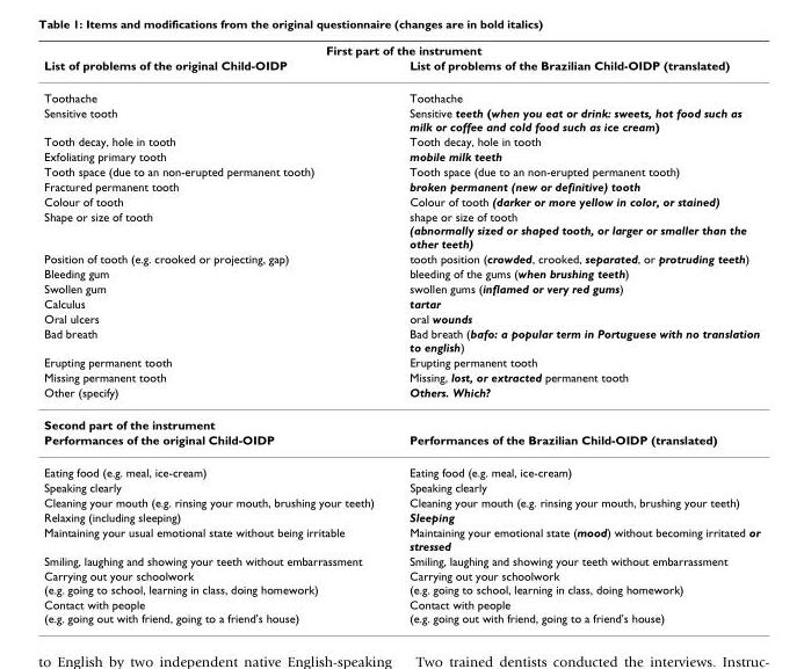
<table><thead><tr><td colspan="2">First part of the instrument</td></tr><tr><td>List of problems of the original Child-OIDP</td><td>List of problems of the Brazilian Child-OIDP (translated)</td></tr></thead><tbody><tr><td>Toothache</td><td>Toothache</td></tr><tr><td>Sensitive tooth</td><td>Sensitive teeth (when you eat or drink: sweets, hot food such as milk or coffee and cold food such as ice cream)</td></tr><tr><td>Tooth decay, hole in tooth</td><td>Tooth decay, hole in tooth</td></tr><tr><td>Exfoliating primary tooth</td><td>mobile milk teeth</td></tr><tr><td>Tooth space (due to an non-erupted permanent tooth)</td><td>Tooth space (due to an non-erupted permanent tooth)</td></tr><tr><td>Fractured permanent tooth</td><td>broken permanent (new or definitive) tooth</td></tr><tr><td>Colour of tooth</td><td>Colour of tooth (darker or more yellow in color, or stained)</td></tr><tr><td>Shape or size of tooth</td><td>shape or size of tooth (abnormally sized or shaped tooth, or larger or smaller than the other teeth)</td></tr><tr><td>Position of tooth (e.g. crooked or projecting, gap)</td><td>tooth position (crowded, crooked, separated, or protruding teeth)</td></tr><tr><td>Bleeding gum</td><td>bleeding of the gums (when brushing teeth)</td></tr><tr><td>Swollen gum</td><td>swollen gums (inflamed or very red gums)</td></tr><tr><td>Calculus</td><td>tartar</td></tr><tr><td>Oral ulcers</td><td>oral wounds</td></tr><tr><td>Bad breath</td><td>Bad breath (bafo: a popular term in Portuguese with no translation to english)</td></tr><tr><td>Erupting permanent tooth</td><td>Erupting permanent tooth</td></tr><tr><td>Missing permanent tooth</td><td>Missing, lost, or extracted permanent tooth</td></tr><tr><td>Other (specify)</td><td>Others. Which?</td></tr><tr><td colspan="2">Second part of the instrument</td></tr><tr><td>Performances of the original Child-OIDP</td><td>Performances of the Brazilian Child-OIDP (translated)</td></tr><tr><td>Eating food (e.g. meal, ice-cream)</td><td>Eating food (e.g. meal, ice-cream)</td></tr><tr><td>Speaking clearly</td><td>Speaking clearly</td></tr><tr><td>Cleaning your mouth (e.g. rinsing your mouth, brushing your teeth)</td><td>Cleaning your mouth (e.g. rinsing your mouth, brushing your teeth)</td></tr><tr><td>Relaxing (including sleeping)</td><td>Sleeping</td></tr><tr><td>Maintaining your usual emotional state without being irritable</td><td>Maintaining your emotional state (mood) without becoming irritated or stressed</td></tr><tr><td>Smiling, laughing and showing your teeth without embarrassment</td><td>Smiling, laughing and showing your teeth without embarrassment</td></tr><tr><td>Carrying out your schoolwork (e.g. going to school, learning in class, doing homework)</td><td>Carrying out your schoolwork (e.g. going to school, learning in class, doing homework)</td></tr><tr><td>Contact with people (e.g. going out with friend, going to a friend&#x27;s house)</td><td>Contact with people (e.g. going out with friend, going to a friend&#x27;s house)</td></tr></tbody></table>